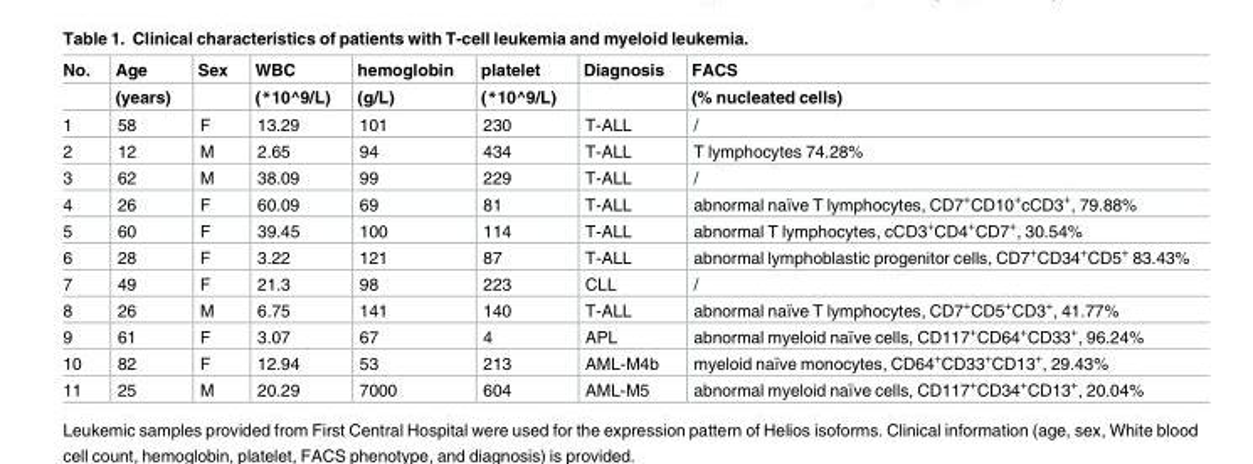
<table><thead><tr><td rowspan="2">No.</td><td rowspan="2">Age (years)</td><td rowspan="2">Sex</td><td rowspan="2">WBC (*10^9/L)</td><td rowspan="2">hemoglobin (g/L)</td><td rowspan="2">platelet (*10^9/L)</td><td rowspan="2">Diagnosis</td><td rowspan="2">FACS (% nucleated cells)</td></tr><tr></tr></thead><tbody><tr><td>1</td><td>58</td><td>F</td><td>13.29</td><td>101</td><td>230</td><td>T-ALL</td><td>/</td></tr><tr><td>2</td><td>12</td><td>M</td><td>2.65</td><td>94</td><td>434</td><td>T-ALL</td><td>T lymphocytes 74.28%</td></tr><tr><td>3</td><td>62</td><td>M</td><td>38.09</td><td>99</td><td>229</td><td>T-ALL</td><td>/</td></tr><tr><td>4</td><td>26</td><td>F</td><td>60.09</td><td>69</td><td>81</td><td>T-ALL</td><td>abnormal naïve T lymphocytes, CD7<sup>+</sup>CD10<sup>+</sup>cCD3<sup>+</sup>, 79.88%</td></tr><tr><td>5</td><td>60</td><td>F</td><td>39.45</td><td>100</td><td>114</td><td>T-ALL</td><td>abnormal T lymphocytes, cCD3<sup>+</sup>CD4<sup>+</sup>CD7<sup>+</sup>, 30.54%</td></tr><tr><td>6</td><td>28</td><td>F</td><td>3.22</td><td>121</td><td>87</td><td>T-ALL</td><td>abnormal lymphoblastic progenitor cells, CD7<sup>+</sup>CD34<sup>+</sup>CD5<sup>+</sup> 83.43%</td></tr><tr><td>7</td><td>49</td><td>F</td><td>21.3</td><td>98</td><td>223</td><td>CLL</td><td>/</td></tr><tr><td>8</td><td>26</td><td>M</td><td>6.75</td><td>141</td><td>140</td><td>T-ALL</td><td>abnormal naïve T lymphocytes, CD7<sup>+</sup>CD5<sup>+</sup>CD3<sup>+</sup>, 41.77%</td></tr><tr><td>9</td><td>61</td><td>F</td><td>3.07</td><td>67</td><td>4</td><td>APL</td><td>abnormal myeloid naïve cells, CD117<sup>+</sup>CD64<sup>+</sup>CD33<sup>+</sup>, 96.24%</td></tr><tr><td>10</td><td>82</td><td>F</td><td>12.94</td><td>53</td><td>213</td><td>AML-M4b</td><td>myeloid naïve monocytes, CD64<sup>+</sup>CD33<sup>+</sup>CD13<sup>+</sup>, 29.43%</td></tr><tr><td>11</td><td>25</td><td>M</td><td>20.29</td><td>7000</td><td>604</td><td>AML-M5</td><td>abnormal myeloid naïve cells, CD117<sup>+</sup>CD34<sup>+</sup>CD13<sup>+</sup>, 20.04%</td></tr></tbody></table>